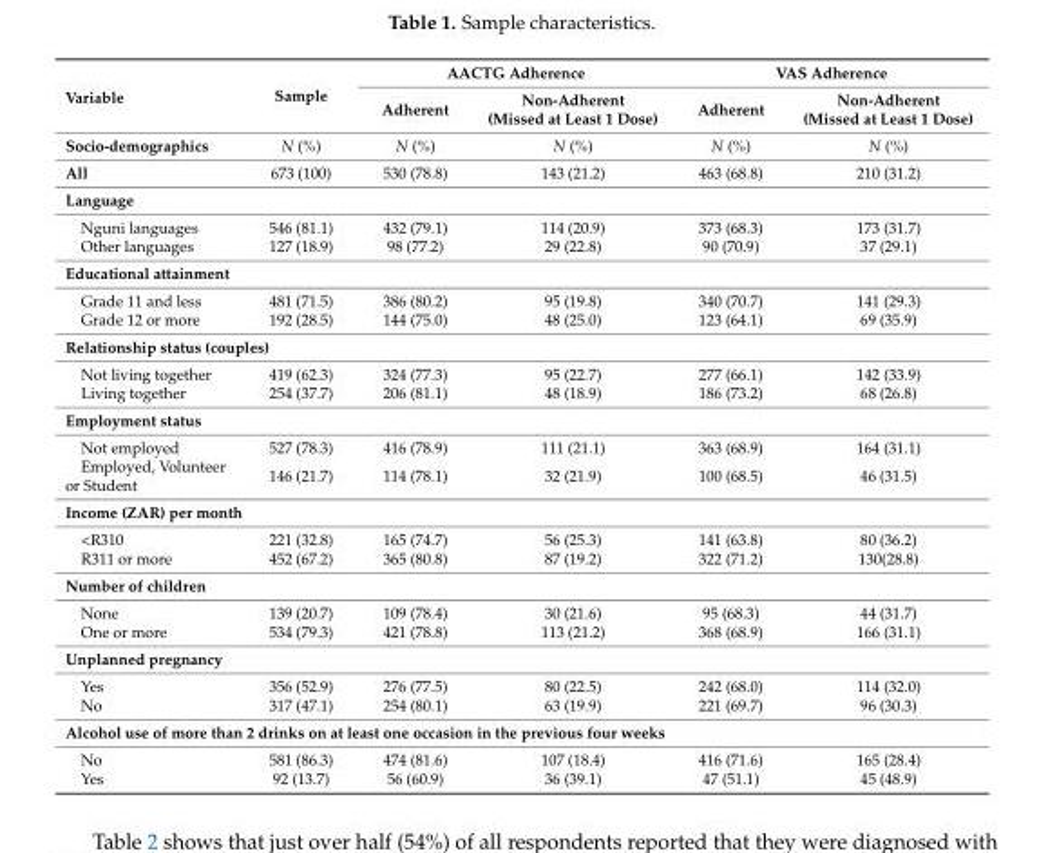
<table><thead><tr><td rowspan="2">Variable</td><td rowspan="2">Sample</td><td colspan="2">AACTG Adherence</td><td colspan="2">VAS Adherence</td></tr><tr><td>Adherent</td><td>Non-Adherent (Missed at Least 1 Dose)</td><td>Adherent</td><td>Non-Adherent (Missed at Least 1 Dose)</td></tr></thead><tbody><tr><td>Socio-demographics</td><td>N (%)</td><td>N (%)</td><td>N (%)</td><td>N (%)</td><td>N (%)</td></tr><tr><td>All</td><td>673 (100)</td><td>530 (78.8)</td><td>143 (21.2)</td><td>463 (68.8)</td><td>210 (31.2)</td></tr><tr><td colspan="6">Language</td></tr><tr><td>Nguni languages</td><td>546 (81.1)</td><td>432 (79.1)</td><td>114 (20.9)</td><td>373 (68.3)</td><td>173 (31.7)</td></tr><tr><td>Other languages</td><td>127 (18.9)</td><td>98 (77.2)</td><td>29 (22.8)</td><td>90 (70.9)</td><td>37 (29.1)</td></tr><tr><td colspan="6">Educational attainment</td></tr><tr><td>Grade 11 and less</td><td>481 (71.5)</td><td>386 (80.2)</td><td>95 (19.8)</td><td>340 (70.7)</td><td>141 (29.3)</td></tr><tr><td>Grade 12 or more</td><td>192 (28.5)</td><td>144 (75.0)</td><td>48 (25.0)</td><td>123 (64.1)</td><td>69 (35.9)</td></tr><tr><td colspan="6">Relationship status (couples)</td></tr><tr><td>Not living together</td><td>419 (62.3)</td><td>324 (77.3)</td><td>95 (22.7)</td><td>277 (66.1)</td><td>142 (33.9)</td></tr><tr><td>Living together</td><td>254 (37.7)</td><td>206 (81.1)</td><td>48 (18.9)</td><td>186 (73.2)</td><td>68 (26.8)</td></tr><tr><td colspan="6">Employment status</td></tr><tr><td>Not employed</td><td>527 (78.3)</td><td>416 (78.9)</td><td>111 (21.1)</td><td>363 (68.9)</td><td>164 (31.1)</td></tr><tr><td>Employed, Volunteer or Student</td><td>146 (21.7)</td><td>114 (78.1)</td><td>32 (21.9)</td><td>100 (68.5)</td><td>46 (31.5)</td></tr><tr><td colspan="6">Income (ZAR) per month</td></tr><tr><td>&lt;R310</td><td>221 (32.8)</td><td>165 (74.7)</td><td>56 (25.3)</td><td>141 (63.8)</td><td>80 (36.2)</td></tr><tr><td>R311 or more</td><td>452 (67.2)</td><td>365 (80.8)</td><td>87 (19.2)</td><td>322 (71.2)</td><td>130(28.8)</td></tr><tr><td colspan="6">Number of children</td></tr><tr><td>None</td><td>139 (20.7)</td><td>109 (78.4)</td><td>30 (21.6)</td><td>95 (68.3)</td><td>44 (31.7)</td></tr><tr><td>One or more</td><td>534 (79.3)</td><td>421 (78.8)</td><td>113 (21.2)</td><td>368 (68.9)</td><td>166 (31.1)</td></tr><tr><td colspan="6">Unplanned pregnancy</td></tr><tr><td>Yes</td><td>356 (52.9)</td><td>276 (77.5)</td><td>80 (22.5)</td><td>242 (68.0)</td><td>114 (32.0)</td></tr><tr><td>No</td><td>317 (47.1)</td><td>254 (80.1)</td><td>63 (19.9)</td><td>221 (69.7)</td><td>96 (30.3)</td></tr><tr><td colspan="6">Alcohol use of more than 2 drinks on at least one occasion in the previous four weeks</td></tr><tr><td>No</td><td>581 (86.3)</td><td>474 (81.6)</td><td>107 (18.4)</td><td>416 (71.6)</td><td>165 (28.4)</td></tr><tr><td>Yes</td><td>92 (13.7)</td><td>56 (60.9)</td><td>36 (39.1)</td><td>47 (51.1)</td><td>45 (48.9)</td></tr></tbody></table>